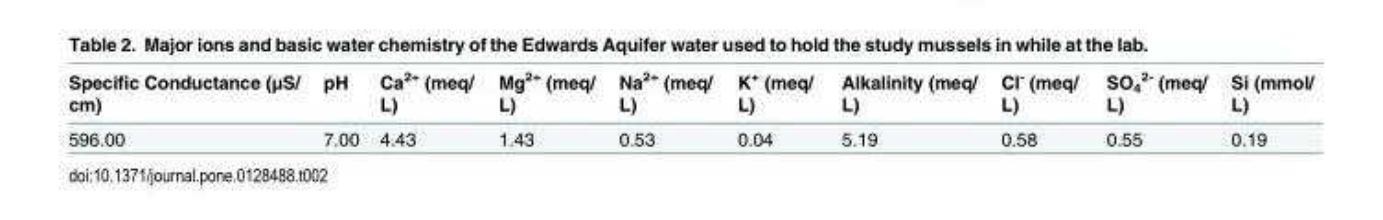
<table><thead><tr><td>Specific Conductance (μS/ cm)</td><td>pH</td><td>Ca<sup>2+</sup> (meq/ L)</td><td>Mg<sup>2+</sup> (meq/ L)</td><td>Na<sup>2+</sup> (meq/ L)</td><td>K<sup>+</sup> (meq/ L)</td><td>Alkalinity (meq/ L)</td><td>Cl<sup>-</sup> (meq/ L)</td><td>SO<sub>4</sub> <sup>2-</sup> (meq/ L)</td><td>Si (mmol/ L)</td></tr></thead><tbody><tr><td>596.00</td><td>7.00</td><td>4.43</td><td>1.43</td><td>0.53</td><td>0.04</td><td>5.19</td><td>0.58</td><td>0.55</td><td>0.19</td></tr></tbody></table>